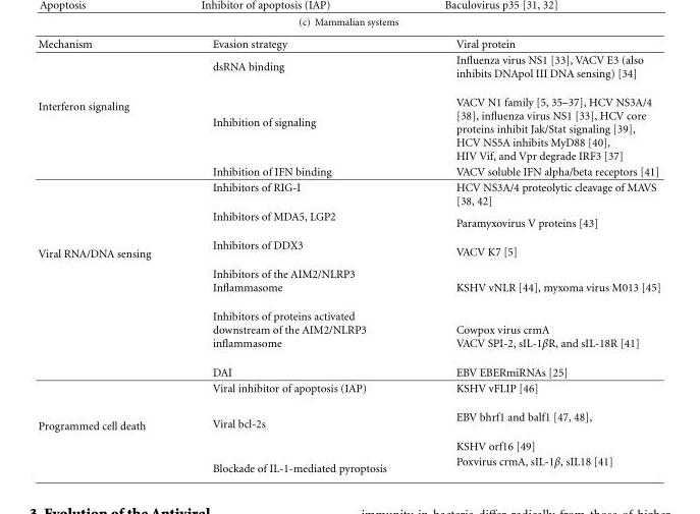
<table><thead><tr><td>Mechanism</td><td>Evasion strategy</td><td>Viral protein</td></tr></thead><tbody><tr><td rowspan="3">Interferon signaling</td><td>dsRNA binding</td><td>Influenza virus NS1 [33], VACV E3 (also inhibits DNApol III DNA sensing) [34]</td></tr><tr><td>Inhibition of signaling</td><td>VACV N1 family [5, 35–37], HCV NS3A/4 [38], influenza virus NS1 [33], HCV core proteins inhibit Jak/Stat signaling [39], HCV NS5A inhibits MyD88 [40], HIV Vif, and Vpr degrade IRF3 [37]</td></tr><tr><td>Inhibition of IFN binding</td><td>VACV soluble IFN alpha/beta receptors [41]</td></tr><tr><td rowspan="6">Viral RNA/DNA sensing</td><td>Inhibitors of RIG-I</td><td>HCV NS3A/4 proteolytic cleavage of MAVS [38, 42]</td></tr><tr><td>Inhibitors of MDA5, LGP2</td><td>Paramyxovirus V proteins [43]</td></tr><tr><td>Inhibitors of DDX3</td><td>VACV K7 [5]</td></tr><tr><td>Inhibitors of the AIM2/NLRP3 Inflammasome</td><td>KSHV vNLR [44], myxoma virus M013 [45]</td></tr><tr><td>Inhibitors of proteins activated downstream of the AIM2/NLRP3 inflammasome</td><td>Cowpox virus crmA VACV SPI-2, sIL-1βR, and sIL-18R [41]</td></tr><tr><td>DAI</td><td>EBV EBERmiRNAs [25]</td></tr><tr><td rowspan="4">Programmed cell death</td><td>Viral inhibitor of apoptosis (IAP)</td><td>KSHV vFLIP [46]</td></tr><tr><td rowspan="2">Viral bcl-2s</td><td>EBV bhrf1 and balf1 [47, 48],</td></tr><tr><td>KSHV orf16 [49]</td></tr><tr><td>Blockade of IL-1-mediated pyroptosis</td><td>Poxvirus crmA, sIL-1β, sIL18 [41]</td></tr></tbody></table>